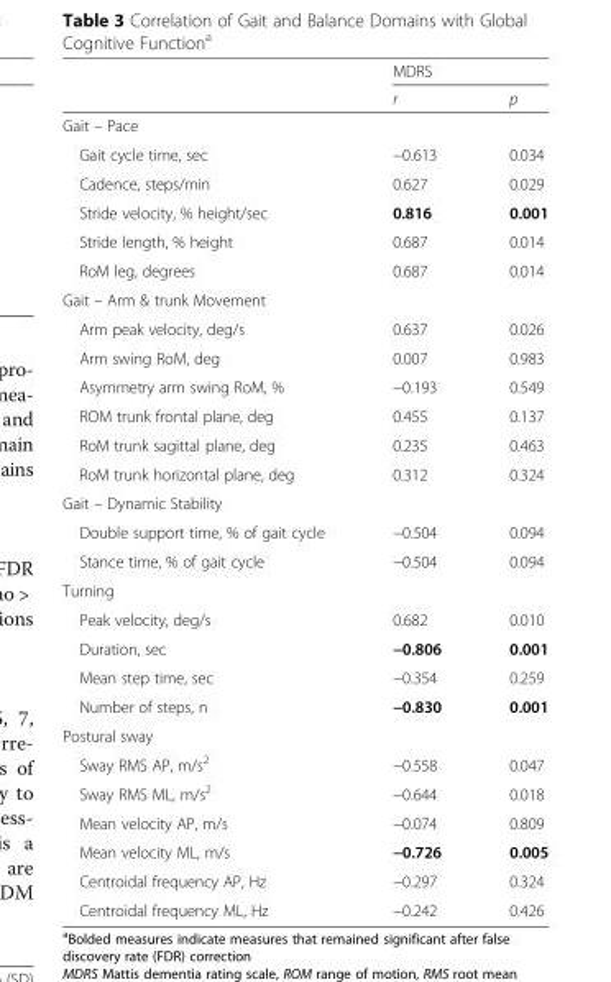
<table><thead><tr><td rowspan="2"></td><td colspan="2">MDRS</td></tr><tr><td>r</td><td>p</td></tr></thead><tbody><tr><td colspan="3">Gait – Pace</td></tr><tr><td>Gait cycle time, sec</td><td>−0.613</td><td>0.034</td></tr><tr><td>Cadence, steps/min</td><td>0.627</td><td>0.029</td></tr><tr><td>Stride velocity, % height/sec</td><td>0.816</td><td>0.001</td></tr><tr><td>Stride length, % height</td><td>0.687</td><td>0.014</td></tr><tr><td>RoM leg, degrees</td><td>0.687</td><td>0.014</td></tr><tr><td colspan="3">Gait – Arm &amp; trunk Movement</td></tr><tr><td>Arm peak velocity, deg/s</td><td>0.637</td><td>0.026</td></tr><tr><td>Arm swing RoM, deg</td><td>0.007</td><td>0.983</td></tr><tr><td>Asymmetry arm swing RoM, %</td><td>−0.193</td><td>0.549</td></tr><tr><td>ROM trunk frontal plane, deg</td><td>0.455</td><td>0.137</td></tr><tr><td>RoM trunk sagittal plane, deg</td><td>0.235</td><td>0.463</td></tr><tr><td>RoM trunk horizontal plane, deg</td><td>0.312</td><td>0.324</td></tr><tr><td colspan="3">Gait – Dynamic Stability</td></tr><tr><td>Double support time, % of gait cycle</td><td>−0.504</td><td>0.094</td></tr><tr><td>Stance time, % of gait cycle</td><td>−0.504</td><td>0.094</td></tr><tr><td colspan="3">Turning</td></tr><tr><td>Peak velocity, deg/s</td><td>0.682</td><td>0.010</td></tr><tr><td>Duration, sec</td><td>−0.806</td><td>0.001</td></tr><tr><td>Mean step time, sec</td><td>−0.354</td><td>0.259</td></tr><tr><td>Number of steps, n</td><td>−0.830</td><td>0.001</td></tr><tr><td colspan="3">Postural sway</td></tr><tr><td>Sway RMS AP, m/s<sup>2</sup></td><td>−0.558</td><td>0.047</td></tr><tr><td>Sway RMS ML, m/s<sup>2</sup></td><td>−0.644</td><td>0.018</td></tr><tr><td>Mean velocity AP, m/s</td><td>−0.074</td><td>0.809</td></tr><tr><td>Mean velocity ML, m/s</td><td>−0.726</td><td>0.005</td></tr><tr><td>Centroidal frequency AP, Hz</td><td>−0.297</td><td>0.324</td></tr><tr><td>Centroidal frequency ML, Hz</td><td>−0.242</td><td>0.426</td></tr></tbody></table>